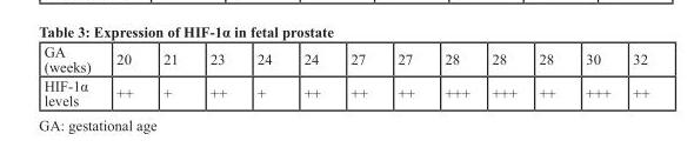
<table><tbody><tr><td>GA (weeks)</td><td>20</td><td>21</td><td>23</td><td>24</td><td>24</td><td>27</td><td>27</td><td>28</td><td>28</td><td>28</td><td>30</td><td>32</td></tr><tr><td>HIF-1α levels</td><td>++</td><td>+</td><td>++</td><td>+</td><td>++</td><td>++</td><td>++</td><td>+++</td><td>+++</td><td>++</td><td>+++</td><td>++</td></tr></tbody></table>